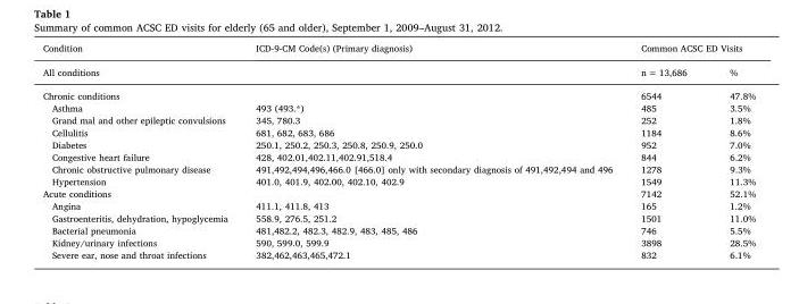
<table><thead><tr><td rowspan="2">Condition All conditions</td><td rowspan="2">ICD-9-CM Code(s) (Primary diagnosis)</td><td colspan="2">Common ACSC ED Visits</td></tr><tr><td>n = 13,686</td><td>%</td></tr></thead><tbody><tr><td>Chronic conditions</td><td></td><td>6544</td><td>47.8%</td></tr><tr><td>Asthma</td><td>493 (493.*)</td><td>485</td><td>3.5%</td></tr><tr><td>Grand mal and other epileptic convulsions</td><td>345, 780.3</td><td>252</td><td>1.8%</td></tr><tr><td>Cellulitis</td><td>681, 682, 683, 686</td><td>1184</td><td>8.6%</td></tr><tr><td>Diabetes</td><td>250.1, 250.2, 250.3, 250.8, 250.9, 250.0</td><td>952</td><td>7.0%</td></tr><tr><td>Congestive heart failure</td><td>428, 402.01,402.11,402.91,518.4</td><td>844</td><td>6.2%</td></tr><tr><td>Chronic obstructive pulmonary disease</td><td>491,492,494,496,466.0 [466.0] only with secondary diagnosis of 491,492,494 and 496</td><td>1278</td><td>9.3%</td></tr><tr><td>Hypertension</td><td>401.0, 401.9, 402.00, 402.10, 402.9</td><td>1549</td><td>11.3%</td></tr><tr><td>Acute conditions</td><td></td><td>7142</td><td>52.1%</td></tr><tr><td>Angina</td><td>411.1, 411.8, 413</td><td>165</td><td>1.2%</td></tr><tr><td>Gastroenteritis, dehydration, hypoglycemia</td><td>558.9, 276.5, 251.2</td><td>1501</td><td>11.0%</td></tr><tr><td>Bacterial pneumonia</td><td>481,482.2, 482.3, 482.9, 483, 485, 486</td><td>746</td><td>5.5%</td></tr><tr><td>Kidney/urinary infections</td><td>590, 599.0, 599.9</td><td>3898</td><td>28.5%</td></tr><tr><td>Severe ear, nose and throat infections</td><td>382,462,463,465,472.1</td><td>832</td><td>6.1%</td></tr></tbody></table>